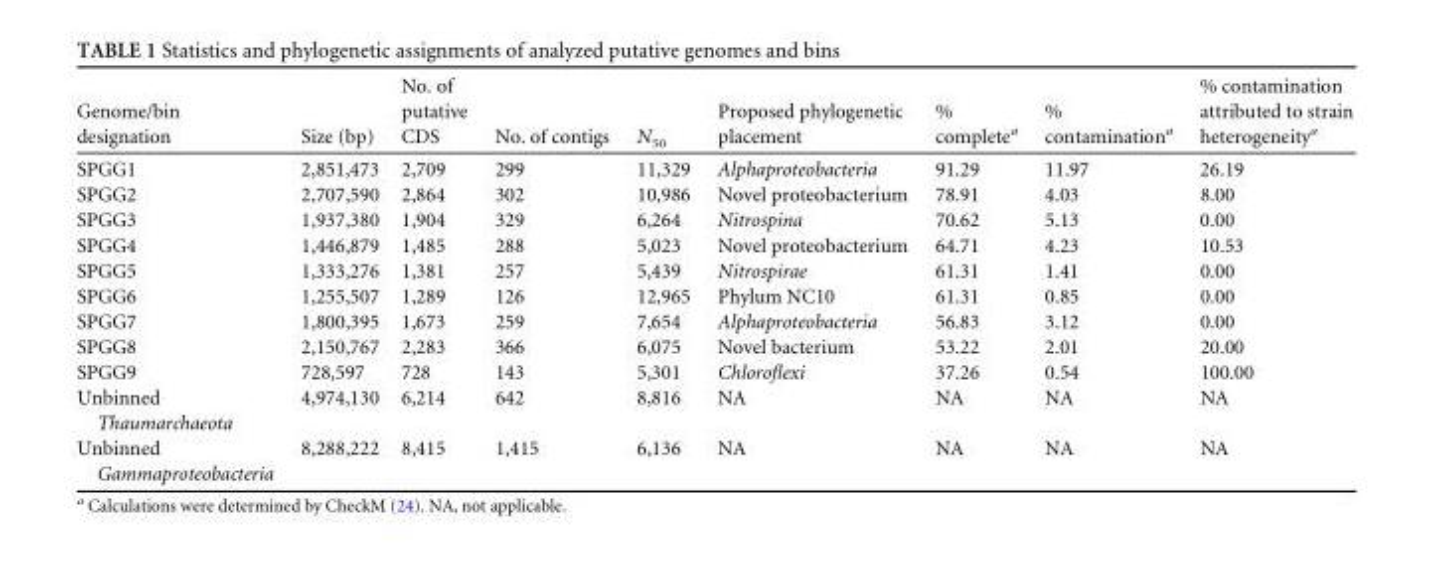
<table><thead><tr><td>Genome/bin designation</td><td>Size (bp)</td><td>No. of putative CDS</td><td>No. of contigs</td><td>N<sub>50</sub></td><td>Proposed phylogenetic placement</td><td>% complete<sup>a</sup></td><td>% contamination<sup>a</sup></td><td>% contamination attributed to strain heterogeneity<sup>a</sup></td></tr></thead><tbody><tr><td>SPGG1</td><td>2,851,473</td><td>2,709</td><td>299</td><td>11,329</td><td>Alphaproteobacteria</td><td>91.29</td><td>11.97</td><td>26.19</td></tr><tr><td>SPGG2</td><td>2,707,590</td><td>2,864</td><td>302</td><td>10,986</td><td>Novel proteobacterium</td><td>78.91</td><td>4.03</td><td>8.00</td></tr><tr><td>SPGG3</td><td>1,937,380</td><td>1,904</td><td>329</td><td>6,264</td><td>Nitrospina</td><td>70.62</td><td>5.13</td><td>0.00</td></tr><tr><td>SPGG4</td><td>1,446,879</td><td>1,485</td><td>288</td><td>5,023</td><td>Novel proteobacterium</td><td>64.71</td><td>4.23</td><td>10.53</td></tr><tr><td>SPGG5</td><td>1,333,276</td><td>1,381</td><td>257</td><td>5,439</td><td>Nitrospirae</td><td>61.31</td><td>1.41</td><td>0.00</td></tr><tr><td>SPGG6</td><td>1,255,507</td><td>1,289</td><td>126</td><td>12,965</td><td>Phylum NC10</td><td>61.31</td><td>0.85</td><td>0.00</td></tr><tr><td>SPGG7</td><td>1,800,395</td><td>1,673</td><td>259</td><td>7,654</td><td>Alphaproteobacteria</td><td>56.83</td><td>3.12</td><td>0.00</td></tr><tr><td>SPGG8</td><td>2,150,767</td><td>2,283</td><td>366</td><td>6,075</td><td>Novel bacterium</td><td>53.22</td><td>2.01</td><td>20.00</td></tr><tr><td>SPGG9</td><td>728,597</td><td>728</td><td>143</td><td>5,301</td><td>Chloroflexi</td><td>37.26</td><td>0.54</td><td>100.00</td></tr><tr><td>Unbinned Thaumarchaeota</td><td>4,974,130</td><td>6,214</td><td>642</td><td>8,816</td><td>NA</td><td>NA</td><td>NA</td><td>NA</td></tr><tr><td>Unbinned Gammaproteobacteria</td><td>8,288,222</td><td>8,415</td><td>1,415</td><td>6,136</td><td>NA</td><td>NA</td><td>NA</td><td>NA</td></tr></tbody></table>